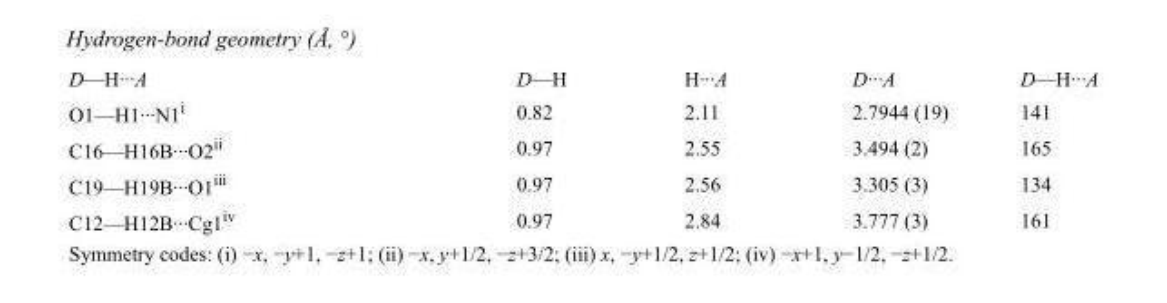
<table><tbody><tr><td>D—H···A</td><td>D—H</td><td>H···A</td><td>D···A</td><td>D—H···A</td></tr><tr><td>O1—H1···N1<sup>i</sup></td><td>0.82</td><td>2.11</td><td>2.7944 (19)</td><td>141</td></tr><tr><td>C16—H16B···O2<sup>ii</sup></td><td>0.97</td><td>2.55</td><td>3.494 (2)</td><td>165</td></tr><tr><td>C19—H19B···O1<sup>iii</sup></td><td>0.97</td><td>2.56</td><td>3.305 (3)</td><td>134</td></tr><tr><td>C12—H12B···Cg1<sup>iv</sup></td><td>0.97</td><td>2.84</td><td>3.777 (3)</td><td>161</td></tr></tbody></table>